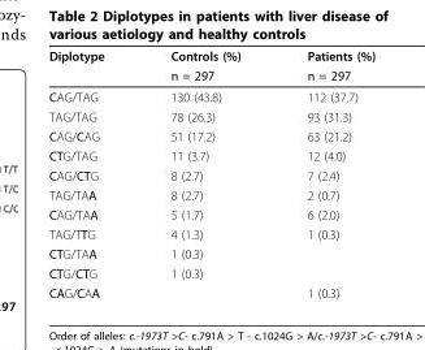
<table><thead><tr><td rowspan="2">Diplotype</td><td rowspan="2">Controls (%) n = 297</td><td rowspan="2">Patients (%) n = 297</td></tr><tr></tr></thead><tbody><tr><td>CAG/TAG</td><td>130 (43.8)</td><td>112 (37.7)</td></tr><tr><td>TAG/TAG</td><td>78 (26.3)</td><td>93 (31.3)</td></tr><tr><td>CAG/CAG</td><td>51 (17.2)</td><td>63 (21.2)</td></tr><tr><td>CTG/TAG</td><td>11 (3.7)</td><td>12 (4.0)</td></tr><tr><td>CAG/CTG</td><td>8 (2.7)</td><td>7 (2.4)</td></tr><tr><td>TAG/TAA</td><td>8 (2.7)</td><td>2 (0.7)</td></tr><tr><td>CAG/TAA</td><td>5 (1.7)</td><td>6 (2.0)</td></tr><tr><td>TAG/TTG</td><td>4 (1.3)</td><td>1 (0.3)</td></tr><tr><td>CTG/TAA</td><td>1 (0.3)</td><td></td></tr><tr><td>CTG/CTG</td><td>1 (0.3)</td><td></td></tr><tr><td>CAG/CAA</td><td></td><td>1 (0.3)</td></tr></tbody></table>